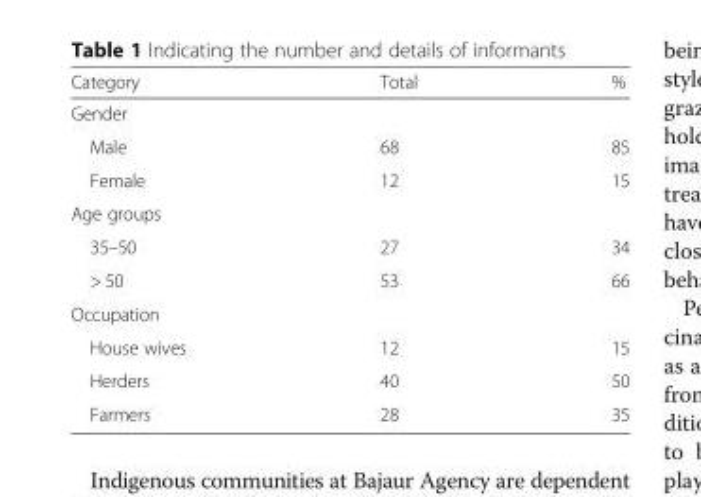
<table><thead><tr><td>Category</td><td>Total</td><td>%</td></tr></thead><tbody><tr><td colspan="3">Gender</td></tr><tr><td>Male</td><td>68</td><td>85</td></tr><tr><td>Female</td><td>12</td><td>15</td></tr><tr><td colspan="3">Age groups</td></tr><tr><td>35–50</td><td>27</td><td>34</td></tr><tr><td>&gt; 50</td><td>53</td><td>66</td></tr><tr><td colspan="3">Occupation</td></tr><tr><td>House wives</td><td>12</td><td>15</td></tr><tr><td>Herders</td><td>40</td><td>50</td></tr><tr><td>Farmers</td><td>28</td><td>35</td></tr></tbody></table>